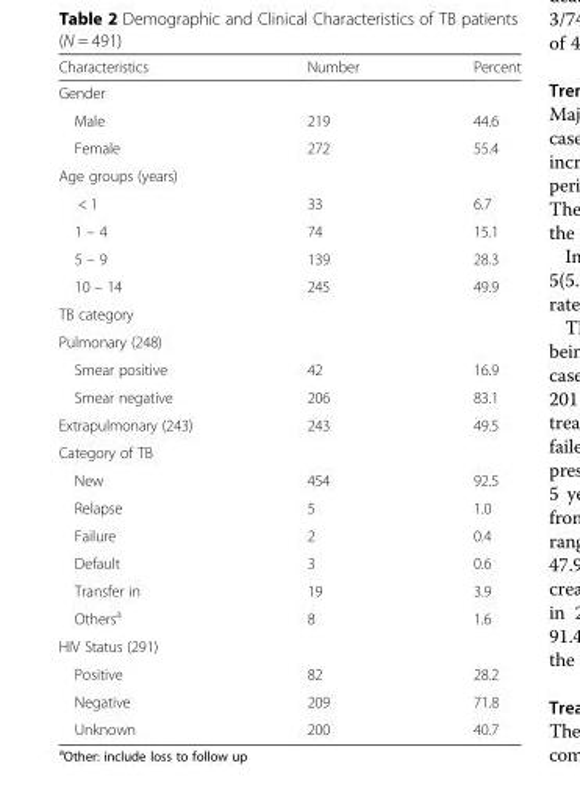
<table><thead><tr><td>Characteristics</td><td>Number</td><td>Percent</td></tr></thead><tbody><tr><td colspan="3">Gender</td></tr><tr><td>Male</td><td>219</td><td>44.6</td></tr><tr><td>Female</td><td>272</td><td>55.4</td></tr><tr><td colspan="3">Age groups (years)</td></tr><tr><td>&lt; 1</td><td>33</td><td>6.7</td></tr><tr><td>1 – 4</td><td>74</td><td>15.1</td></tr><tr><td>5 – 9</td><td>139</td><td>28.3</td></tr><tr><td>10 – 14</td><td>245</td><td>49.9</td></tr><tr><td colspan="3">TB category</td></tr><tr><td colspan="3">Pulmonary (248)</td></tr><tr><td>Smear positive</td><td>42</td><td>16.9</td></tr><tr><td>Smear negative</td><td>206</td><td>83.1</td></tr><tr><td>Extrapulmonary (243)</td><td>243</td><td>49.5</td></tr><tr><td colspan="3">Category of TB</td></tr><tr><td>New</td><td>454</td><td>92.5</td></tr><tr><td>Relapse</td><td>5</td><td>1.0</td></tr><tr><td>Failure</td><td>2</td><td>0.4</td></tr><tr><td>Default</td><td>3</td><td>0.6</td></tr><tr><td>Transfer in</td><td>19</td><td>3.9</td></tr><tr><td>Others<sup>a</sup></td><td>8</td><td>1.6</td></tr><tr><td colspan="3">HIV Status (291)</td></tr><tr><td>Positive</td><td>82</td><td>28.2</td></tr><tr><td>Negative</td><td>209</td><td>71.8</td></tr><tr><td>Unknown</td><td>200</td><td>40.7</td></tr></tbody></table>